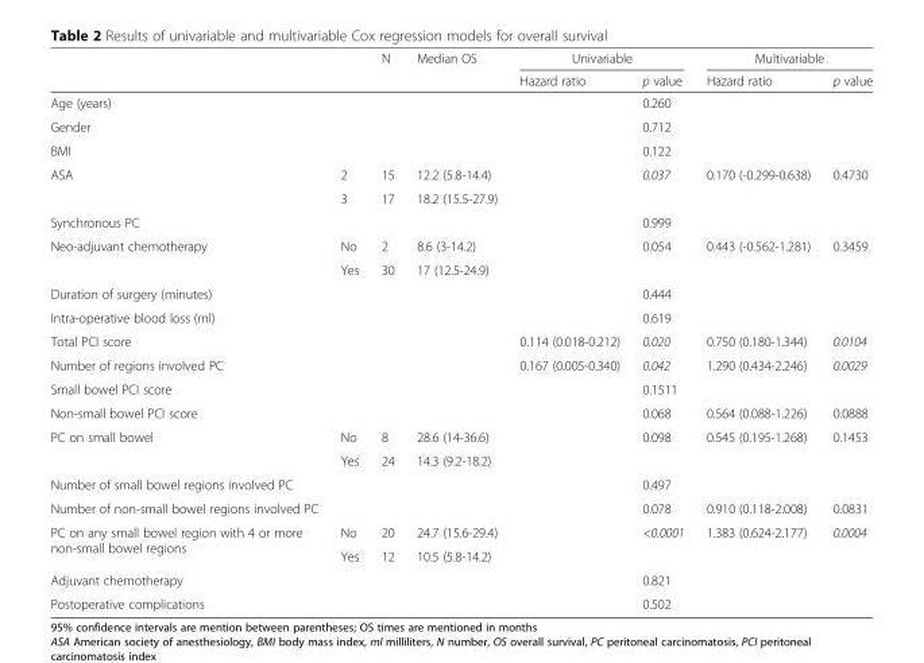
<table><thead><tr><td rowspan="2"></td><td rowspan="2"></td><td rowspan="2">N</td><td rowspan="2">Median OS</td><td colspan="2">Univariable</td><td colspan="2">Multivariable</td></tr><tr><td>Hazard ratio</td><td>p value</td><td>Hazard ratio</td><td>p value</td></tr></thead><tbody><tr><td>Age (years)</td><td></td><td></td><td></td><td></td><td>0.260</td><td></td><td></td></tr><tr><td>Gender</td><td></td><td></td><td></td><td></td><td>0.712</td><td></td><td></td></tr><tr><td>BMI</td><td></td><td></td><td></td><td></td><td>0.122</td><td></td><td></td></tr><tr><td rowspan="2">ASA</td><td>2</td><td>15</td><td>12.2 (5.8-14.4)</td><td rowspan="2"></td><td rowspan="2">0.037</td><td rowspan="2">0.170 (-0.299-0.638)</td><td rowspan="2">0.4730</td></tr><tr><td>3</td><td>17</td><td>18.2 (15.5-27.9)</td></tr><tr><td>Synchronous PC</td><td></td><td></td><td></td><td></td><td>0.999</td><td></td><td></td></tr><tr><td rowspan="2">Neo-adjuvant chemotherapy</td><td>No</td><td>2</td><td>8.6 (3-14.2)</td><td rowspan="2"></td><td rowspan="2">0.054</td><td rowspan="2">0.443 (-0.562-1.281)</td><td rowspan="2">0.3459</td></tr><tr><td>Yes</td><td>30</td><td>17 (12.5-24.9)</td></tr><tr><td>Duration of surgery (minutes)</td><td></td><td></td><td></td><td></td><td>0.444</td><td></td><td></td></tr><tr><td>Intra-operative blood loss (ml)</td><td></td><td></td><td></td><td></td><td>0.619</td><td></td><td></td></tr><tr><td>Total PCI score</td><td></td><td></td><td></td><td>0.114 (0.018-0.212)</td><td>0.020</td><td>0.750 (0.180-1.344)</td><td>0.0104</td></tr><tr><td>Number of regions involved PC</td><td></td><td></td><td></td><td>0.167 (0.005-0.340)</td><td>0.042</td><td>1.290 (0.434-2.246)</td><td>0.0029</td></tr><tr><td>Small bowel PCI score</td><td></td><td></td><td></td><td></td><td>0.1511</td><td></td><td></td></tr><tr><td>Non-small bowel PCI score</td><td></td><td></td><td></td><td></td><td>0.068</td><td>0.564 (0.088-1.226)</td><td>0.0888</td></tr><tr><td rowspan="2">PC on small bowel</td><td>No</td><td>8</td><td>28.6 (14-36.6)</td><td rowspan="2"></td><td rowspan="2">0.098</td><td rowspan="2">0.545 (0.195-1.268)</td><td rowspan="2">0.1453</td></tr><tr><td>Yes</td><td>24</td><td>14.3 (9.2-18.2)</td></tr><tr><td>Number of small bowel regions involved PC</td><td></td><td></td><td></td><td></td><td>0.497</td><td></td><td></td></tr><tr><td>Number of non-small bowel regions involved PC</td><td></td><td></td><td></td><td></td><td>0.078</td><td>0.910 (0.118-2.008)</td><td>0.0831</td></tr><tr><td rowspan="2">PC on any small bowel region with 4 or more non-small bowel regions</td><td>No</td><td>20</td><td>24.7 (15.6-29.4)</td><td rowspan="2"></td><td rowspan="2">&lt;0.0001</td><td rowspan="2">1.383 (0.624-2.177)</td><td rowspan="2">0.0004</td></tr><tr><td>Yes</td><td>12</td><td>10.5 (5.8-14.2)</td></tr><tr><td>Adjuvant chemotherapy</td><td></td><td></td><td></td><td></td><td>0.821</td><td></td><td></td></tr><tr><td>Postoperative complications</td><td></td><td></td><td></td><td></td><td>0.502</td><td></td><td></td></tr></tbody></table>